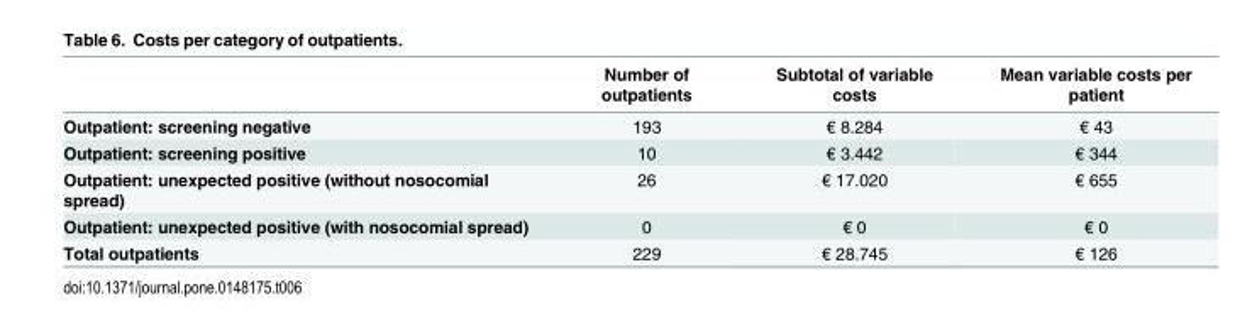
<table><thead><tr><td></td><td>Number of outpatients</td><td>Subtotal of variable costs</td><td>Mean variable costs per patient</td></tr></thead><tbody><tr><td>Outpatient: screening negative</td><td>193</td><td>€ 8.284</td><td>€ 43</td></tr><tr><td>Outpatient: screening positive</td><td>10</td><td>€ 3.442</td><td>€ 344</td></tr><tr><td>Outpatient: unexpected positive (without nosocomial spread)</td><td>26</td><td>€ 17.020</td><td>€ 655</td></tr><tr><td>Outpatient: unexpected positive (with nosocomial spread)</td><td>0</td><td>€ 0</td><td>€ 0</td></tr><tr><td>Total outpatients</td><td>229</td><td>€ 28.745</td><td>€ 126</td></tr></tbody></table>